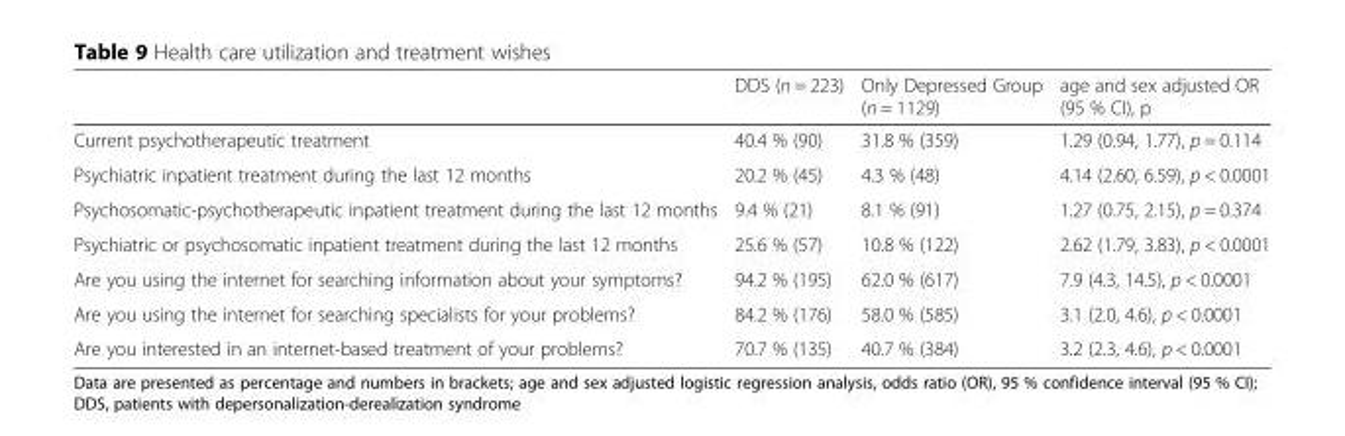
<table><thead><tr><td></td><td>DDS (n = 223)</td><td>Only Depressed Group (n = 1129)</td><td>age and sex adjusted OR (95 % CI), p</td></tr></thead><tbody><tr><td>Current psychotherapeutic treatment</td><td>40.4 % (90)</td><td>31.8 % (359)</td><td>1.29 (0.94, 1.77), p = 0.114</td></tr><tr><td>Psychiatric inpatient treatment during the last 12 months</td><td>20.2 % (45)</td><td>4.3 % (48)</td><td>4.14 (2.60, 6.59), p &lt; 0.0001</td></tr><tr><td>Psychosomatic-psychotherapeutic inpatient treatment during the last 12 months</td><td>9.4 % (21)</td><td>8.1 % (91)</td><td>1.27 (0.75, 2.15), p = 0.374</td></tr><tr><td>Psychiatric or psychosomatic inpatient treatment during the last 12 months</td><td>25.6 % (57)</td><td>10.8 % (122)</td><td>2.62 (1.79, 3.83), p &lt; 0.0001</td></tr><tr><td>Are you using the internet for searching information about your symptoms?</td><td>94.2 % (195)</td><td>62.0 % (617)</td><td>7.9 (4.3, 14.5), p &lt; 0.0001</td></tr><tr><td>Are you using the internet for searching specialists for your problems?</td><td>84.2 % (176)</td><td>58.0 % (585)</td><td>3.1 (2.0, 4.6), p &lt; 0.0001</td></tr><tr><td>Are you interested in an internet-based treatment of your problems?</td><td>70.7 % (135)</td><td>40.7 % (384)</td><td>3.2 (2.3, 4.6), p &lt; 0.0001</td></tr></tbody></table>